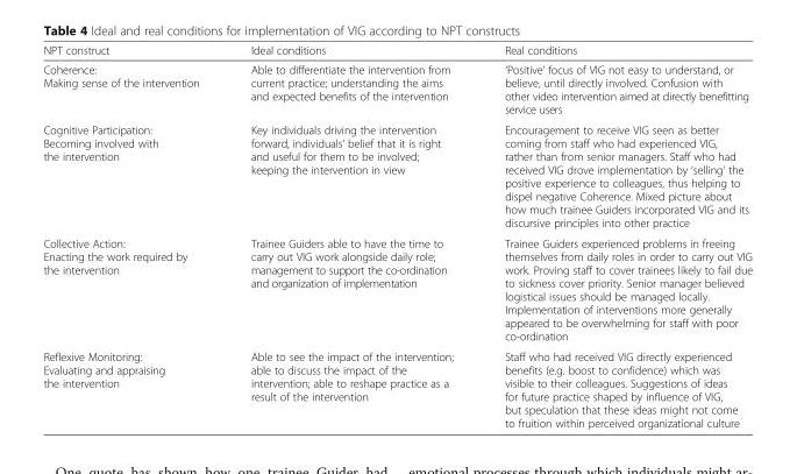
<table><thead><tr><td>NPT construct</td><td>Ideal conditions</td><td>Real conditions</td></tr></thead><tbody><tr><td>Coherence: Making sense of the intervention</td><td>Able to differentiate the intervention from current practice; understanding the aims and expected benefits of the intervention</td><td>‘Positive’ focus of VIG not easy to understand, or believe, until directly involved. Confusion with other video intervention aimed at directly benefitting service users</td></tr><tr><td>Cognitive Participation: Becoming involved with the intervention</td><td>Key individuals driving the intervention forward, individuals’ belief that it is right and useful for them to be involved; keeping the intervention in view</td><td>Encouragement to receive VIG seen as better coming from staff who had experienced VIG, rather than from senior managers. Staff who had received VIG drove implementation by ‘selling’ the positive experience to colleagues, thus helping to dispel negative Coherence. Mixed picture about how much trainee Guiders incorporated VIG and its discursive principles into other practice</td></tr><tr><td>Collective Action: Enacting the work required by the intervention</td><td>Trainee Guiders able to have the time to carry out VIG work alongside daily role; management to support the co-ordination and organization of implementation</td><td>Trainee Guiders experienced problems in freeing themselves from daily roles in order to carry out VIG work. Proving staff to cover trainees likely to fail due to sickness cover priority. Senior manager believed logistical issues should be managed locally. Implementation of interventions more generally appeared to be overwhelming for staff with poor co-ordination</td></tr><tr><td>Reflexive Monitoring: Evaluating and appraising the intervention</td><td>Able to see the impact of the intervention; able to discuss the impact of the intervention; able to reshape practice as a result of the intervention</td><td>Staff who had received VIG directly experienced benefits (e.g. boost to confidence) which was visible to their colleagues. Suggestions of ideas for future practice shaped by influence of VIG, but speculation that these ideas might not come to fruition within perceived organizational culture</td></tr></tbody></table>